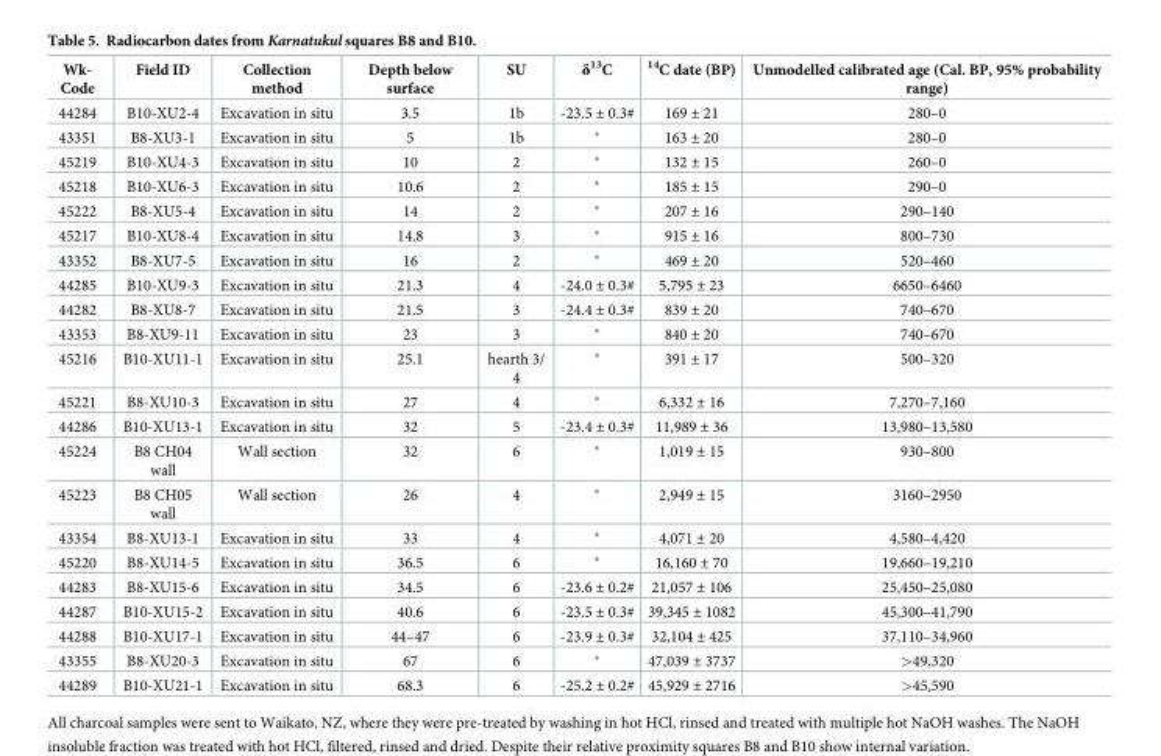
<table><thead><tr><td>Wk- Code</td><td>Field ID</td><td>Collection method</td><td>Depth below surface</td><td>SU</td><td>δ<sup>13</sup>C</td><td><sup>14</sup>C date (BP)</td><td>Unmodelled calibrated age (Cal. BP, 95% probability range)</td></tr></thead><tbody><tr><td>44284</td><td>B10-XU2-4</td><td>Excavation in situ</td><td>3.5</td><td>1b</td><td>-23.5 ± 0.3#</td><td>169 ± 21</td><td>280–0</td></tr><tr><td>43351</td><td>B8-XU3-1</td><td>Excavation in situ</td><td>5</td><td>1b</td><td>*</td><td>163 ± 20</td><td>280–0</td></tr><tr><td>45219</td><td>B10-XU4-3</td><td>Excavation in situ</td><td>10</td><td>2</td><td>*</td><td>132 ± 15</td><td>260–0</td></tr><tr><td>45218</td><td>B10-XU6-3</td><td>Excavation in situ</td><td>10.6</td><td>2</td><td>*</td><td>185 ± 15</td><td>290–0</td></tr><tr><td>45222</td><td>B8-XU5-4</td><td>Excavation in situ</td><td>14</td><td>2</td><td>*</td><td>207 ± 16</td><td>290–140</td></tr><tr><td>45217</td><td>B10-XU8-4</td><td>Excavation in situ</td><td>14.8</td><td>3</td><td>*</td><td>915 ± 16</td><td>800–730</td></tr><tr><td>43352</td><td>B8-XU7-5</td><td>Excavation in situ</td><td>16</td><td>2</td><td>*</td><td>469 ± 20</td><td>520–460</td></tr><tr><td>44285</td><td>B10-XU9-3</td><td>Excavation in situ</td><td>21.3</td><td>4</td><td>-24.0 ± 0.3#</td><td>5,795 ± 23</td><td>6650–6460</td></tr><tr><td>44282</td><td>B8-XU8-7</td><td>Excavation in situ</td><td>21.5</td><td>3</td><td>-24.4 ± 0.3#</td><td>839 ± 20</td><td>740–670</td></tr><tr><td>43353</td><td>B8-XU9-11</td><td>Excavation in situ</td><td>23</td><td>3</td><td>*</td><td>840 ± 20</td><td>740–670</td></tr><tr><td>45216</td><td>B10-XU11-1</td><td>Excavation in situ</td><td>25.1</td><td>hearth 3/ 4</td><td>*</td><td>391 ± 17</td><td>500–320</td></tr><tr><td>45221</td><td>B8-XU10-3</td><td>Excavation in situ</td><td>27</td><td>4</td><td>*</td><td>6,332 ± 16</td><td>7,270–7,160</td></tr><tr><td>44286</td><td>B10-XU13-1</td><td>Excavation in situ</td><td>32</td><td>5</td><td>-23.4 ± 0.3#</td><td>11,989 ± 36</td><td>13,980–13,580</td></tr><tr><td>45224</td><td>B8 CH04 wall</td><td>Wall section</td><td>32</td><td>6</td><td>*</td><td>1,019 ± 15</td><td>930–800</td></tr><tr><td>45223</td><td>B8 CH05 wall</td><td>Wall section</td><td>26</td><td>4</td><td>*</td><td>2,949 ± 15</td><td>3160–2950</td></tr><tr><td>43354</td><td>B8-XU13-1</td><td>Excavation in situ</td><td>33</td><td>4</td><td>*</td><td>4,071 ± 20</td><td>4,580–4,420</td></tr><tr><td>45220</td><td>B8-XU14-5</td><td>Excavation in situ</td><td>36.5</td><td>6</td><td>*</td><td>16,160 ± 70</td><td>19,660–19,210</td></tr><tr><td>44283</td><td>B8-XU15-6</td><td>Excavation in situ</td><td>34.5</td><td>6</td><td>-23.6 ± 0.2#</td><td>21,057 ± 106</td><td>25,450–25,080</td></tr><tr><td>44287</td><td>B10-XU15-2</td><td>Excavation in situ</td><td>40.6</td><td>6</td><td>-23.5 ± 0.3#</td><td>39,345 ± 1082</td><td>45,300–41,790</td></tr><tr><td>44288</td><td>B10-XU17-1</td><td>Excavation in situ</td><td>44–47</td><td>6</td><td>-23.9 ± 0.3#</td><td>32,104 ± 425</td><td>37,110–34,960</td></tr><tr><td>43355</td><td>B8-XU20-3</td><td>Excavation in situ</td><td>67</td><td>6</td><td>*</td><td>47,039 ± 3737</td><td>&gt;49,320</td></tr><tr><td>44289</td><td>B10-XU21-1</td><td>Excavation in situ</td><td>68.3</td><td>6</td><td>-25.2 ± 0.2#</td><td>45,929 ± 2716</td><td>&gt;45,590</td></tr></tbody></table>